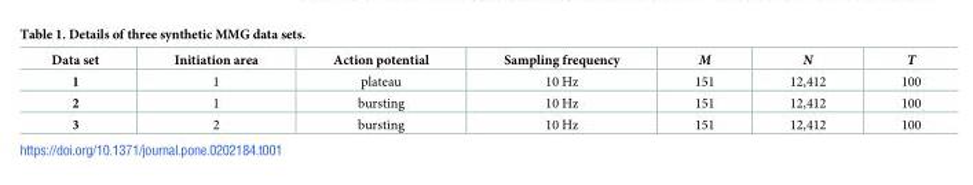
<table><thead><tr><td>Data set</td><td>Initiation area</td><td>Action potential</td><td>Sampling frequency</td><td>M</td><td>N</td><td>T</td></tr></thead><tbody><tr><td>1</td><td>1</td><td>plateau</td><td>10 Hz</td><td>151</td><td>12,412</td><td>100</td></tr><tr><td>2</td><td>1</td><td>bursting</td><td>10 Hz</td><td>151</td><td>12,412</td><td>100</td></tr><tr><td>3</td><td>2</td><td>bursting</td><td>10 Hz</td><td>151</td><td>12,412</td><td>100</td></tr></tbody></table>